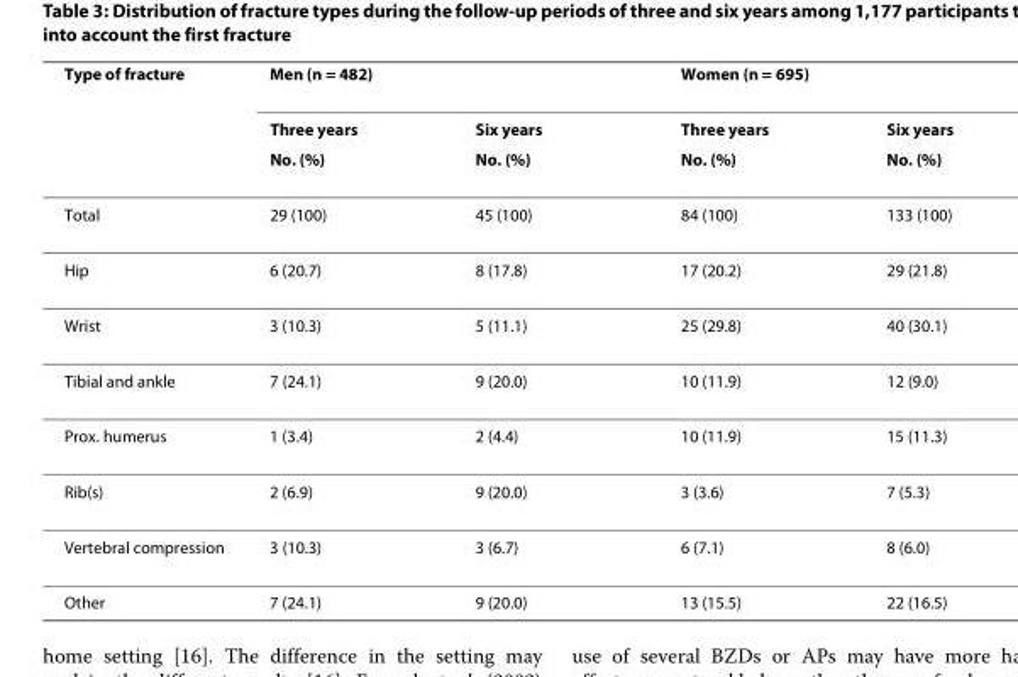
<table><thead><tr><td rowspan="3">Type of fracture</td><td colspan="2">Men (n = 482)</td><td colspan="2">Women (n = 695)</td></tr><tr><td rowspan="2">Three years No. (%)</td><td rowspan="2">Six years No. (%)</td><td rowspan="2">Three years No. (%)</td><td rowspan="2">Six years No. (%)</td></tr><tr></tr></thead><tbody><tr><td>Total</td><td>29 (100)</td><td>45 (100)</td><td>84 (100)</td><td>133 (100)</td></tr><tr><td>Hip</td><td>6 (20.7)</td><td>8 (17.8)</td><td>17 (20.2)</td><td>29 (21.8)</td></tr><tr><td>Wrist</td><td>3 (10.3)</td><td>5 (11.1)</td><td>25 (29.8)</td><td>40 (30.1)</td></tr><tr><td>Tibial and ankle</td><td>7 (24.1)</td><td>9 (20.0)</td><td>10 (11.9)</td><td>12 (9.0)</td></tr><tr><td>Prox. humerus</td><td>1 (3.4)</td><td>2 (4.4)</td><td>10 (11.9)</td><td>15 (11.3)</td></tr><tr><td>Rib(s)</td><td>2 (6.9)</td><td>9 (20.0)</td><td>3 (3.6)</td><td>7 (5.3)</td></tr><tr><td>Vertebral compression</td><td>3 (10.3)</td><td>3 (6.7)</td><td>6 (7.1)</td><td>8 (6.0)</td></tr><tr><td>Other</td><td>7 (24.1)</td><td>9 (20.0)</td><td>13 (15.5)</td><td>22 (16.5)</td></tr></tbody></table>